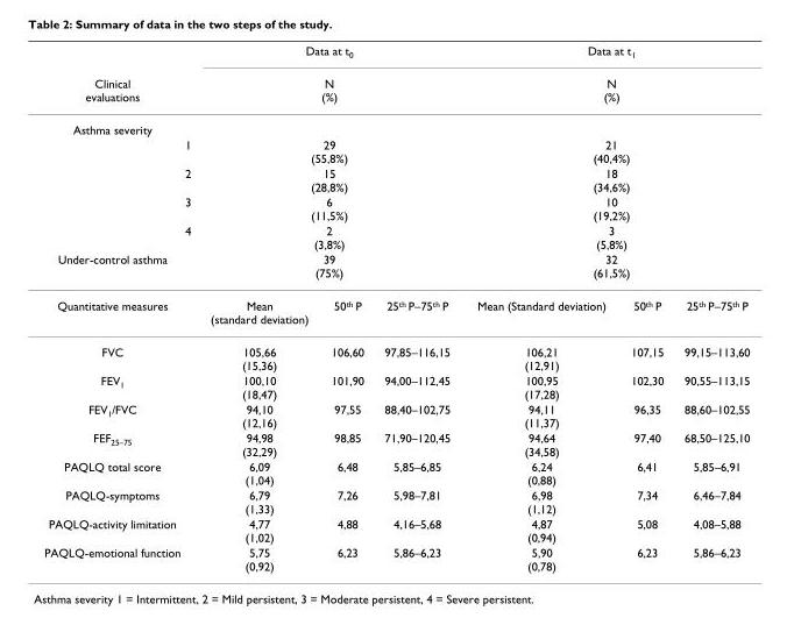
<table><thead><tr><td rowspan="3">Clinical evaluations Asthma severity</td><td rowspan="2" colspan="3">Data at t0 N (%)</td><td rowspan="2" colspan="3">Data at t1 N (%)</td></tr><tr></tr><tr><td></td><td></td><td></td><td></td><td></td><td></td></tr></thead><tbody><tr><td>1</td><td colspan="3">29 (55,8%)</td><td colspan="3">21 (40,4%)</td></tr><tr><td>2</td><td colspan="3">15 (28,8%)</td><td colspan="3">18 (34,6%)</td></tr><tr><td>3</td><td colspan="3">6 (11,5%)</td><td colspan="3">10 (19,2%)</td></tr><tr><td>4</td><td colspan="3">2 (3,8%)</td><td colspan="3">3 (5,8%)</td></tr><tr><td>Under-control asthma</td><td colspan="3">39 (75%)</td><td colspan="3">32 (61,5%)</td></tr><tr><td>Quantitative measures</td><td>Mean (standard deviation)</td><td>50<sup>th</sup> P</td><td>25<sup>th</sup> P–75<sup>th</sup> P</td><td>Mean (Standard deviation)</td><td>50<sup>th</sup> P</td><td>25<sup>th</sup> P–75<sup>th</sup> P</td></tr><tr><td>FVC</td><td>105,66 (15,36)</td><td>106,60</td><td>97,85–116,15</td><td>106,21 (12,91)</td><td>107,15</td><td>99,15–113,60</td></tr><tr><td>FEV<sub>1</sub></td><td>100,10 (18,47)</td><td>101,90</td><td>94,00–112,45</td><td>100,95 (17,28)</td><td>102,30</td><td>90,55–113,15</td></tr><tr><td>FEV<sub>1</sub>/FVC</td><td>94,10 (12,16)</td><td>97,55</td><td>88,40–102,75</td><td>94,11 (11,37)</td><td>96,35</td><td>88,60–102,55</td></tr><tr><td>FEF<sub>25–75</sub></td><td>94,98 (32,29)</td><td>98,85</td><td>71,90–120,45</td><td>94,64 (34,58)</td><td>97,40</td><td>68,50–125,10</td></tr><tr><td>PAQLQ total score</td><td>6,09 (1,04)</td><td>6,48</td><td>5,85–6,85</td><td>6,24 (0,88)</td><td>6,41</td><td>5,85–6,91</td></tr><tr><td>PAQLQ-symptoms</td><td>6,79 (1,33)</td><td>7,26</td><td>5,98–7,81</td><td>6,98 (1,12)</td><td>7,34</td><td>6,46–7,84</td></tr><tr><td>PAQLQ-activity limitation</td><td>4,77 (1,02)</td><td>4,88</td><td>4,16–5,68</td><td>4,87 (0,94)</td><td>5,08</td><td>4,08–5,88</td></tr><tr><td>PAQLQ-emotional function</td><td>5,75 (0,92)</td><td>6,23</td><td>5,86–6,23</td><td>5,90 (0,78)</td><td>6,23</td><td>5,86–6,23</td></tr></tbody></table>